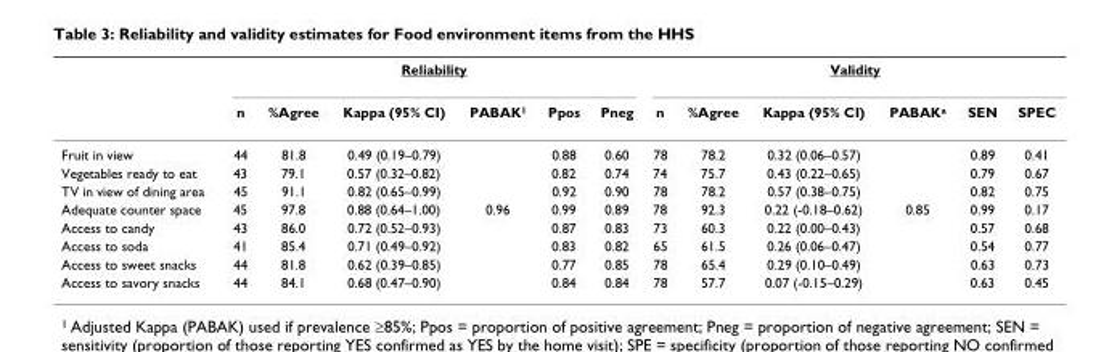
<table><thead><tr><td rowspan="2"></td><td colspan="6">Reliability</td><td colspan="6">Validity</td></tr><tr><td>n</td><td>%Agree</td><td>Kappa (95% CI)</td><td>PABAK<sup>1</sup></td><td>Ppos</td><td>Pneg</td><td>n</td><td>%Agree</td><td>Kappa (95% CI)</td><td>PABAK<sup>a</sup></td><td>SEN</td><td>SPEC</td></tr></thead><tbody><tr><td>Fruit in view</td><td>44</td><td>81.8</td><td>0.49 (0.19–0.79)</td><td></td><td>0.88</td><td>0.60</td><td>78</td><td>78.2</td><td>0.32 (0.06–0.57)</td><td></td><td>0.89</td><td>0.41</td></tr><tr><td>Vegetables ready to eat</td><td>43</td><td>79.1</td><td>0.57 (0.32–0.82)</td><td></td><td>0.82</td><td>0.74</td><td>74</td><td>75.7</td><td>0.43 (0.22–0.65)</td><td></td><td>0.79</td><td>0.67</td></tr><tr><td>TV in view of dining area</td><td>45</td><td>91.1</td><td>0.82 (0.65–0.99)</td><td></td><td>0.92</td><td>0.90</td><td>78</td><td>78.2</td><td>0.57 (0.38–0.75)</td><td></td><td>0.82</td><td>0.75</td></tr><tr><td>Adequate counter space</td><td>45</td><td>97.8</td><td>0.88 (0.64–1.00)</td><td>0.96</td><td>0.99</td><td>0.89</td><td>78</td><td>92.3</td><td>0.22 (-0.18–0.62)</td><td>0.85</td><td>0.99</td><td>0.17</td></tr><tr><td>Access to candy</td><td>43</td><td>86.0</td><td>0.72 (0.52–0.93)</td><td></td><td>0.87</td><td>0.83</td><td>73</td><td>60.3</td><td>0.22 (0.00–0.43)</td><td></td><td>0.57</td><td>0.68</td></tr><tr><td>Access to soda</td><td>41</td><td>85.4</td><td>0.71 (0.49–0.92)</td><td></td><td>0.83</td><td>0.82</td><td>65</td><td>61.5</td><td>0.26 (0.06–0.47)</td><td></td><td>0.54</td><td>0.77</td></tr><tr><td>Access to sweet snacks</td><td>44</td><td>81.8</td><td>0.62 (0.39–0.85)</td><td></td><td>0.77</td><td>0.85</td><td>78</td><td>65.4</td><td>0.29 (0.10–0.49)</td><td></td><td>0.63</td><td>0.73</td></tr><tr><td>Access to savory snacks</td><td>44</td><td>84.1</td><td>0.68 (0.47–0.90)</td><td></td><td>0.84</td><td>0.84</td><td>78</td><td>57.7</td><td>0.07 (-0.15–0.29)</td><td></td><td>0.63</td><td>0.45</td></tr></tbody></table>